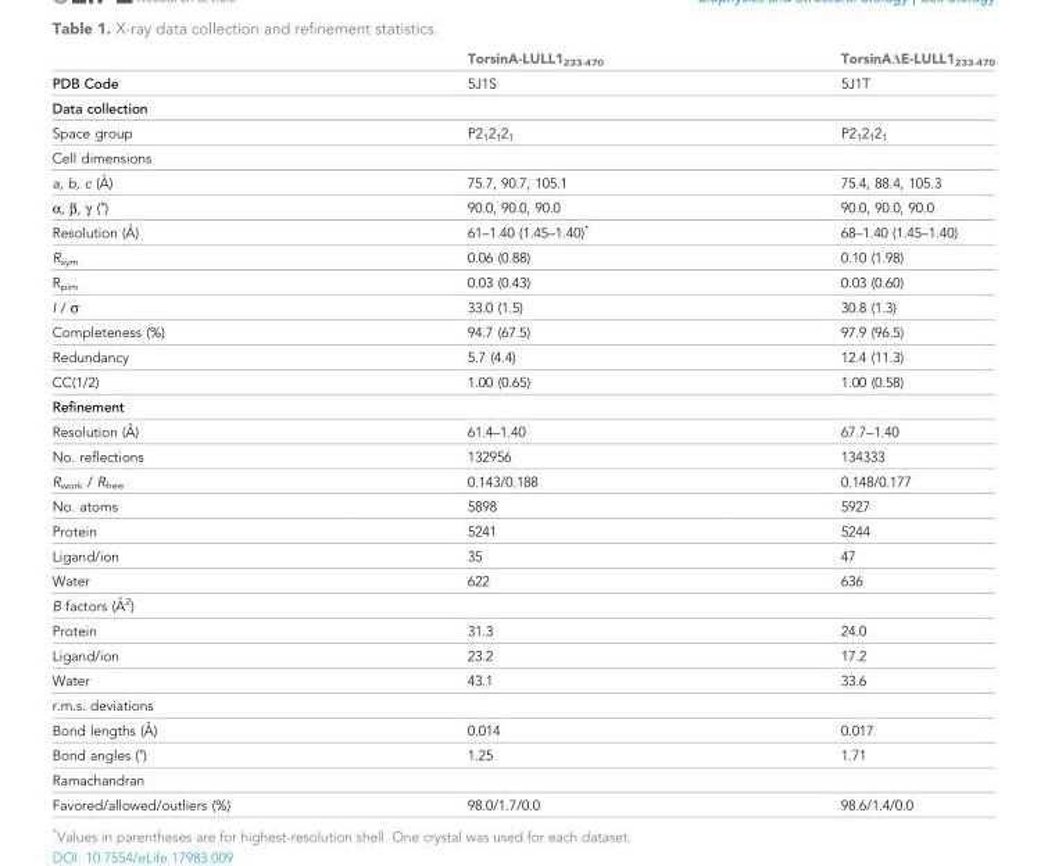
<table><thead><tr><td></td><td>TorsinA-LULL1<sub>233-470</sub></td><td>TorsinAΔE-LULL1<sub>233-470</sub></td></tr></thead><tbody><tr><td>PDB Code</td><td>5J1S</td><td>5J1T</td></tr><tr><td colspan="3">Data collection</td></tr><tr><td>Space group</td><td>P2<sub>1</sub>2<sub>1</sub>2<sub>1</sub></td><td>P2<sub>1</sub>2<sub>1</sub>2<sub>1</sub></td></tr><tr><td colspan="3">Cell dimensions</td></tr><tr><td>a, b, c (A˚ )</td><td>75.7, 90.7, 105.1</td><td>75.4, 88.4, 105.3</td></tr><tr><td>α, β, γ (˚)</td><td>90.0, 90.0, 90.0</td><td>90.0, 90.0, 90.0</td></tr><tr><td>Resolution (A˚ )</td><td>61–1.40 (1.45–1.40)*</td><td>68–1.40 (1.45–1.40)</td></tr><tr><td>R<sub>sym</sub></td><td>0.06 (0.88)</td><td>0.10 (1.98)</td></tr><tr><td>R<sub>pim</sub></td><td>0.03 (0.43)</td><td>0.03 (0.60)</td></tr><tr><td>I / σ</td><td>33.0 (1.5)</td><td>30.8 (1.3)</td></tr><tr><td>Completeness (%)</td><td>94.7 (67.5)</td><td>97.9 (96.5)</td></tr><tr><td>Redundancy</td><td>5.7 (4.4)</td><td>12.4 (11.3)</td></tr><tr><td>CC(1/2)</td><td>1.00 (0.65)</td><td>1.00 (0.58)</td></tr><tr><td colspan="3">Refinement</td></tr><tr><td>Resolution (A˚ )</td><td>61.4–1.40</td><td>67.7–1.40</td></tr><tr><td>No. reflections</td><td>132956</td><td>134333</td></tr><tr><td>R<sub>work</sub> / R<sub>free</sub></td><td>0.143/0.188</td><td>0.148/0.177</td></tr><tr><td>No. atoms</td><td>5898</td><td>5927</td></tr><tr><td>Protein</td><td>5241</td><td>5244</td></tr><tr><td>Ligand/ion</td><td>35</td><td>47</td></tr><tr><td>Water</td><td>622</td><td>636</td></tr><tr><td colspan="3">B factors (A˚ 2)</td></tr><tr><td>Protein</td><td>31.3</td><td>24.0</td></tr><tr><td>Ligand/ion</td><td>23.2</td><td>17.2</td></tr><tr><td>Water</td><td>43.1</td><td>33.6</td></tr><tr><td colspan="3">r.m.s. deviations</td></tr><tr><td>Bond lengths (A˚ )</td><td>0.014</td><td>0.017</td></tr><tr><td>Bond angles (˚)</td><td>1.25</td><td>1.71</td></tr><tr><td colspan="3">Ramachandran</td></tr><tr><td>Favored/allowed/outliers (%)</td><td>98.0/1.7/0.0</td><td>98.6/1.4/0.0</td></tr></tbody></table>